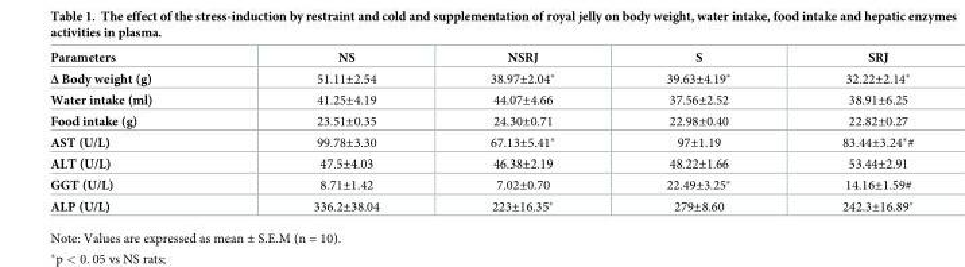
<table><thead><tr><td>Parameters</td><td>NS</td><td>NSRJ</td><td>S</td><td>SRJ</td></tr></thead><tbody><tr><td>Δ Body weight (g)</td><td>51.11±2.54</td><td>38.97±2.04*</td><td>39.63±4.19*</td><td>32.22±2.14*</td></tr><tr><td>Water intake (ml)</td><td>41.25±4.19</td><td>44.07±4.66</td><td>37.56±2.52</td><td>38.91±6.25</td></tr><tr><td>Food intake (g)</td><td>23.51±0.35</td><td>24.30±0.71</td><td>22.98±0.40</td><td>22.82±0.27</td></tr><tr><td>AST (U/L)</td><td>99.78±3.30</td><td>67.13±5.41*</td><td>97±1.19</td><td>83.44±3.24*#</td></tr><tr><td>ALT (U/L)</td><td>47.5±4.03</td><td>46.38±2.19</td><td>48.22±1.66</td><td>53.44±2.91</td></tr><tr><td>GGT (U/L)</td><td>8.71±1.42</td><td>7.02±0.70</td><td>22.49±3.25*</td><td>14.16±1.59#</td></tr><tr><td>ALP (U/L)</td><td>336.2±38.04</td><td>223±16.35*</td><td>279±8.60</td><td>242.3±16.89*</td></tr></tbody></table>